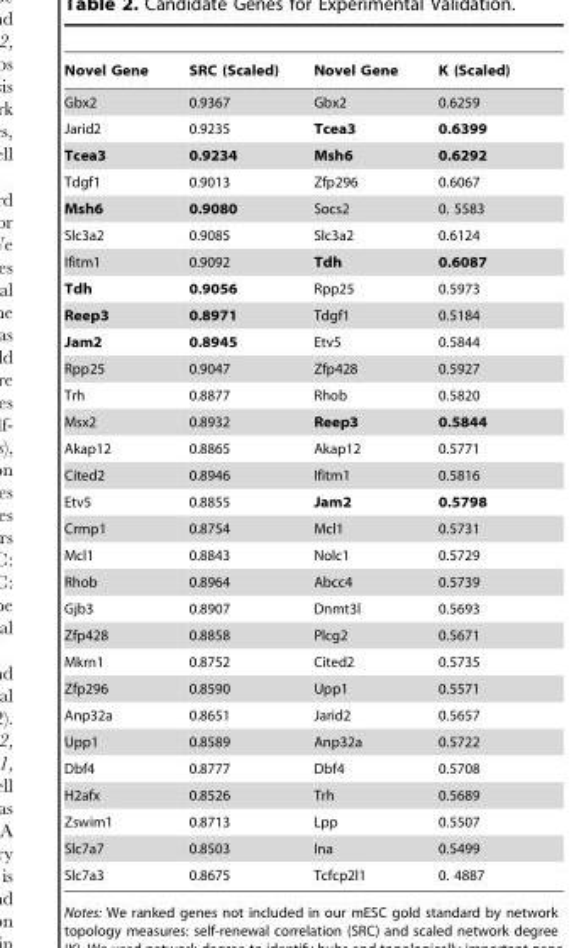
<table><thead><tr><td>Novel Gene</td><td>SRC (Scaled)</td><td>Novel Gene</td><td>K (Scaled)</td></tr></thead><tbody><tr><td>Gbx2</td><td>0.9367</td><td>Gbx2</td><td>0.6259</td></tr><tr><td>Jarid2</td><td>0.9235</td><td>Tcea3</td><td>0.6399</td></tr><tr><td>Tcea3</td><td>0.9234</td><td>Msh6</td><td>0.6292</td></tr><tr><td>Tdgf1</td><td>0.9013</td><td>Zfp296</td><td>0.6067</td></tr><tr><td>Msh6</td><td>0.9080</td><td>Socs2</td><td>0. 5583</td></tr><tr><td>Slc3a2</td><td>0.9085</td><td>Slc3a2</td><td>0.6124</td></tr><tr><td>Ifitm1</td><td>0.9092</td><td>Tdh</td><td>0.6087</td></tr><tr><td>Tdh</td><td>0.9056</td><td>Rpp25</td><td>0.5973</td></tr><tr><td>Reep3</td><td>0.8971</td><td>Tdgf1</td><td>0.5184</td></tr><tr><td>Jam2</td><td>0.8945</td><td>Etv5</td><td>0.5844</td></tr><tr><td>Rpp25</td><td>0.9047</td><td>Zfp428</td><td>0.5927</td></tr><tr><td>Trh</td><td>0.8877</td><td>Rhob</td><td>0.5820</td></tr><tr><td>Msx2</td><td>0.8932</td><td>Reep3</td><td>0.5844</td></tr><tr><td>Akap12</td><td>0.8865</td><td>Akap12</td><td>0.5771</td></tr><tr><td>Cited2</td><td>0.8946</td><td>Ifitm1</td><td>0.5816</td></tr><tr><td>Etv5</td><td>0.8855</td><td>Jam2</td><td>0.5798</td></tr><tr><td>Crmp1</td><td>0.8754</td><td>Mcl1</td><td>0.5731</td></tr><tr><td>Mcl1</td><td>0.8843</td><td>Nolc1</td><td>0.5729</td></tr><tr><td>Rhob</td><td>0.8964</td><td>Abcc4</td><td>0.5739</td></tr><tr><td>Gjb3</td><td>0.8907</td><td>Dnmt3l</td><td>0.5693</td></tr><tr><td>Zfp428</td><td>0.8858</td><td>Plcg2</td><td>0.5671</td></tr><tr><td>Mkrn1</td><td>0.8752</td><td>Cited2</td><td>0.5735</td></tr><tr><td>Zfp296</td><td>0.8590</td><td>Upp1</td><td>0.5571</td></tr><tr><td>Anp32a</td><td>0.8651</td><td>Jarid2</td><td>0.5657</td></tr><tr><td>Upp1</td><td>0.8589</td><td>Anp32a</td><td>0.5722</td></tr><tr><td>Dbf4</td><td>0.8777</td><td>Dbf4</td><td>0.5708</td></tr><tr><td>H2afx</td><td>0.8526</td><td>Trh</td><td>0.5689</td></tr><tr><td>Zswim1</td><td>0.8713</td><td>Lpp</td><td>0.5507</td></tr><tr><td>Slc7a7</td><td>0.8503</td><td>Ina</td><td>0.5499</td></tr><tr><td>Slc7a3</td><td>0.8675</td><td>Tcfcp2l1</td><td>0. 4887</td></tr></tbody></table>